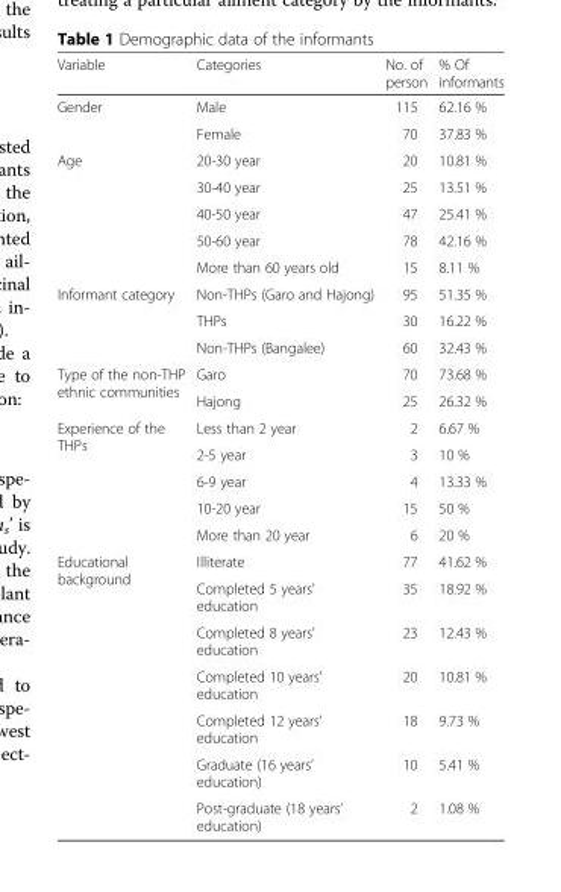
<table><thead><tr><td>Variable</td><td>Categories</td><td>No. of person</td><td>% Of informants</td></tr></thead><tbody><tr><td rowspan="2">Gender</td><td>Male</td><td>115</td><td>62.16 %</td></tr><tr><td>Female</td><td>70</td><td>37.83 %</td></tr><tr><td rowspan="5">Age</td><td>20-30 year</td><td>20</td><td>10.81 %</td></tr><tr><td>30-40 year</td><td>25</td><td>13.51 %</td></tr><tr><td>40-50 year</td><td>47</td><td>25.41 %</td></tr><tr><td>50-60 year</td><td>78</td><td>42.16 %</td></tr><tr><td>More than 60 years old</td><td>15</td><td>8.11 %</td></tr><tr><td rowspan="3">Informant category</td><td>Non-THPs (Garo and Hajong)</td><td>95</td><td>51.35 %</td></tr><tr><td>THPs</td><td>30</td><td>16.22 %</td></tr><tr><td>Non-THPs (Bangalee)</td><td>60</td><td>32.43 %</td></tr><tr><td rowspan="2">Type of the non-THP ethnic communities</td><td>Garo</td><td>70</td><td>73.68 %</td></tr><tr><td>Hajong</td><td>25</td><td>26.32 %</td></tr><tr><td rowspan="5">Experience of the THPs</td><td>Less than 2 year</td><td>2</td><td>6.67 %</td></tr><tr><td>2-5 year</td><td>3</td><td>10 %</td></tr><tr><td>6-9 year</td><td>4</td><td>13.33 %</td></tr><tr><td>10-20 year</td><td>15</td><td>50 %</td></tr><tr><td>More than 20 year</td><td>6</td><td>20 %</td></tr><tr><td rowspan="7">Educational background</td><td>Illiterate</td><td>77</td><td>41.62 %</td></tr><tr><td>Completed 5 years’ education</td><td>35</td><td>18.92 %</td></tr><tr><td>Completed 8 years’ education</td><td>23</td><td>12.43 %</td></tr><tr><td>Completed 10 years’ education</td><td>20</td><td>10.81 %</td></tr><tr><td>Completed 12 years’ education</td><td>18</td><td>9.73 %</td></tr><tr><td>Graduate (16 years’ education)</td><td>10</td><td>5.41 %</td></tr><tr><td>Post-graduate (18 years’ education)</td><td>2</td><td>1.08 %</td></tr></tbody></table>